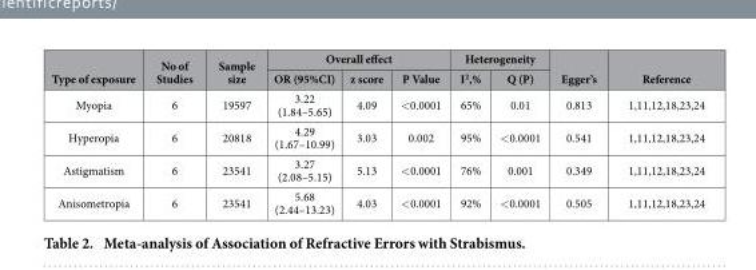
<table><thead><tr><td rowspan="2">Type of exposure</td><td rowspan="2">No of Studies</td><td rowspan="2">Sample size</td><td colspan="3">Overall effect</td><td colspan="2">Heterogeneity</td><td rowspan="2">Egger’s</td><td rowspan="2">Reference</td></tr><tr><td>OR (95%CI)</td><td>z score</td><td>P Value</td><td>I<sup>2</sup>,%</td><td>Q (P)</td></tr></thead><tbody><tr><td>Myopia</td><td>6</td><td>19597</td><td>3.22 (1.84–5.65)</td><td>4.09</td><td>&lt; 0.0001</td><td>65%</td><td>0.01</td><td>0.813</td><td>1,11,12,18,23,24</td></tr><tr><td>Hyperopia</td><td>6</td><td>20818</td><td>4.29 (1.67–10.99)</td><td>3.03</td><td>0.002</td><td>95%</td><td>&lt; 0.0001</td><td>0.541</td><td>1,11,12,18,23,24</td></tr><tr><td>Astigmatism</td><td>6</td><td>23541</td><td>3.27 (2.08–5.15)</td><td>5.13</td><td>&lt; 0.0001</td><td>76%</td><td>0.001</td><td>0.349</td><td>1,11,12,18,23,24</td></tr><tr><td>Anisometropia</td><td>6</td><td>23541</td><td>5.68 (2.44–13.23)</td><td>4.03</td><td>&lt; 0.0001</td><td>92%</td><td>&lt; 0.0001</td><td>0.505</td><td>1,11,12,18,23,24</td></tr></tbody></table>